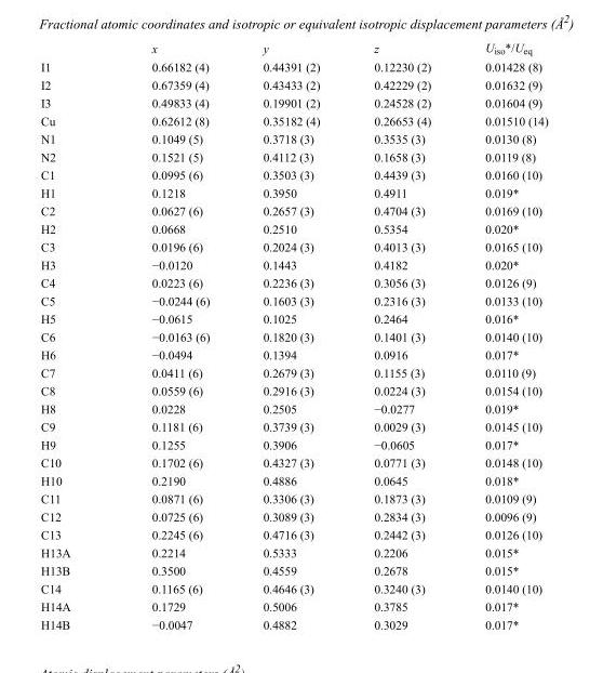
<table><thead><tr><td></td><td>x</td><td>y</td><td>z</td><td>U<sub>iso</sub>*/U<sub>eq</sub></td></tr></thead><tbody><tr><td>I1</td><td>0.66182 (4)</td><td>0.44391 (2)</td><td>0.12230 (2)</td><td>0.01428 (8)</td></tr><tr><td>I2</td><td>0.67359 (4)</td><td>0.43433 (2)</td><td>0.42229 (2)</td><td>0.01632 (9)</td></tr><tr><td>I3</td><td>0.49833 (4)</td><td>0.19901 (2)</td><td>0.24528 (2)</td><td>0.01604 (9)</td></tr><tr><td>Cu</td><td>0.62612 (8)</td><td>0.35182 (4)</td><td>0.26653 (4)</td><td>0.01510 (14)</td></tr><tr><td>N1</td><td>0.1049 (5)</td><td>0.3718 (3)</td><td>0.3535 (3)</td><td>0.0130 (8)</td></tr><tr><td>N2</td><td>0.1521 (5)</td><td>0.4112 (3)</td><td>0.1658 (3)</td><td>0.0119 (8)</td></tr><tr><td>C1</td><td>0.0995 (6)</td><td>0.3503 (3)</td><td>0.4439 (3)</td><td>0.0160 (10)</td></tr><tr><td>H1</td><td>0.1218</td><td>0.3950</td><td>0.4911</td><td>0.019*</td></tr><tr><td>C2</td><td>0.0627 (6)</td><td>0.2657 (3)</td><td>0.4704 (3)</td><td>0.0169 (10)</td></tr><tr><td>H2</td><td>0.0668</td><td>0.2510</td><td>0.5354</td><td>0.020*</td></tr><tr><td>C3</td><td>0.0196 (6)</td><td>0.2024 (3)</td><td>0.4013 (3)</td><td>0.0165 (10)</td></tr><tr><td>H3</td><td>−0.0120</td><td>0.1443</td><td>0.4182</td><td>0.020*</td></tr><tr><td>C4</td><td>0.0223 (6)</td><td>0.2236 (3)</td><td>0.3056 (3)</td><td>0.0126 (9)</td></tr><tr><td>C5</td><td>−0.0244 (6)</td><td>0.1603 (3)</td><td>0.2316 (3)</td><td>0.0133 (10)</td></tr><tr><td>H5</td><td>−0.0615</td><td>0.1025</td><td>0.2464</td><td>0.016*</td></tr><tr><td>C6</td><td>−0.0163 (6)</td><td>0.1820 (3)</td><td>0.1401 (3)</td><td>0.0140 (10)</td></tr><tr><td>H6</td><td>−0.0494</td><td>0.1394</td><td>0.0916</td><td>0.017*</td></tr><tr><td>C7</td><td>0.0411 (6)</td><td>0.2679 (3)</td><td>0.1155 (3)</td><td>0.0110 (9)</td></tr><tr><td>C8</td><td>0.0559 (6)</td><td>0.2916 (3)</td><td>0.0224 (3)</td><td>0.0154 (10)</td></tr><tr><td>H8</td><td>0.0228</td><td>0.2505</td><td>−0.0277</td><td>0.019*</td></tr><tr><td>C9</td><td>0.1181 (6)</td><td>0.3739 (3)</td><td>0.0029 (3)</td><td>0.0145 (10)</td></tr><tr><td>H9</td><td>0.1255</td><td>0.3906</td><td>−0.0605</td><td>0.017*</td></tr><tr><td>C10</td><td>0.1702 (6)</td><td>0.4327 (3)</td><td>0.0771 (3)</td><td>0.0148 (10)</td></tr><tr><td>H10</td><td>0.2190</td><td>0.4886</td><td>0.0645</td><td>0.018*</td></tr><tr><td>C11</td><td>0.0871 (6)</td><td>0.3306 (3)</td><td>0.1873 (3)</td><td>0.0109 (9)</td></tr><tr><td>C12</td><td>0.0725 (6)</td><td>0.3089 (3)</td><td>0.2834 (3)</td><td>0.0096 (9)</td></tr><tr><td>C13</td><td>0.2245 (6)</td><td>0.4716 (3)</td><td>0.2442 (3)</td><td>0.0126 (10)</td></tr><tr><td>H13A</td><td>0.2214</td><td>0.5333</td><td>0.2206</td><td>0.015*</td></tr><tr><td>H13B</td><td>0.3500</td><td>0.4559</td><td>0.2678</td><td>0.015*</td></tr><tr><td>C14</td><td>0.1165 (6)</td><td>0.4646 (3)</td><td>0.3240 (3)</td><td>0.0140 (10)</td></tr><tr><td>H14A</td><td>0.1729</td><td>0.5006</td><td>0.3785</td><td>0.017*</td></tr><tr><td>H14B</td><td>−0.0047</td><td>0.4882</td><td>0.3029</td><td>0.017*</td></tr></tbody></table>